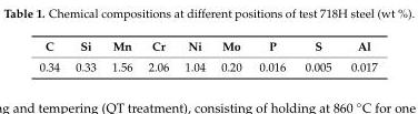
<table><thead><tr><td>C</td><td>Si</td><td>Mn</td><td>Cr</td><td>Ni</td><td>Mo</td><td>P</td><td>S</td><td>Al</td></tr></thead><tbody><tr><td>0.34</td><td>0.33</td><td>1.56</td><td>2.06</td><td>1.04</td><td>0.20</td><td>0.016</td><td>0.005</td><td>0.017</td></tr></tbody></table>